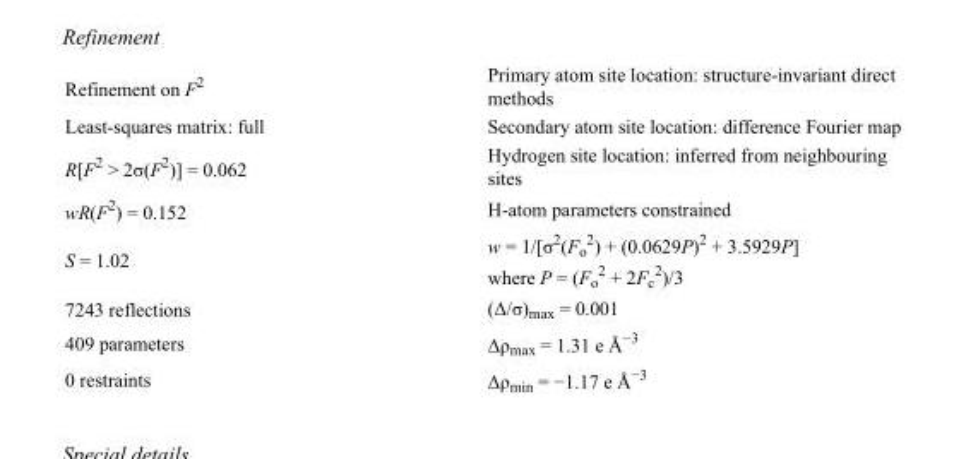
<table><tbody><tr><td>Refinement on F<sup>2</sup></td><td>Primary atom site location: structure-invariant direct methods</td></tr><tr><td>Least-squares matrix: full</td><td>Secondary atom site location: difference Fourier map</td></tr><tr><td>R[F<sup>2</sup> &gt; 2σ(F<sup>2</sup>)] = 0.062</td><td>Hydrogen site location: inferred from neighbouring sites</td></tr><tr><td>wR(F<sup>2</sup>) = 0.152</td><td>H-atom parameters constrained</td></tr><tr><td>S = 1.02</td><td>w = 1/[σ<sup>2</sup>(F<sub>o</sub> <sup>2</sup>) + (0.0629P)<sup>2</sup> + 3.5929P] where P = (F<sub>o</sub> <sup>2</sup> + 2F<sub>c</sub> <sup>2</sup>)/3</td></tr><tr><td>7243 reflections</td><td>(Δ/σ)<sub>max</sub> = 0.001</td></tr><tr><td>409 parameters</td><td>Δρ<sub>max</sub> = 1.31 e Å<sup>−3</sup></td></tr><tr><td>0 restraints</td><td>Δρ<sub>min</sub> = −1.17 e Å<sup>−3</sup></td></tr></tbody></table>